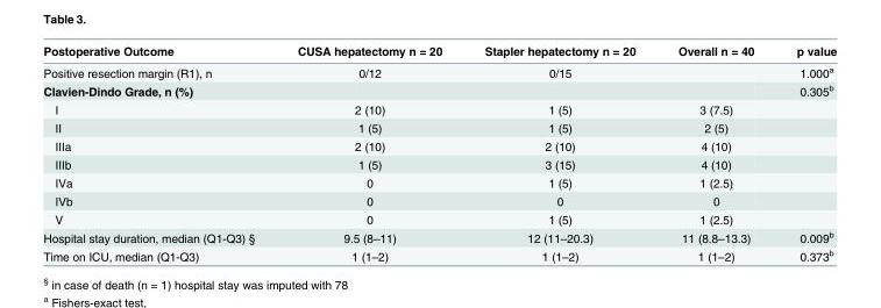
<table><thead><tr><td>Postoperative Outcome</td><td>CUSA hepatectomy n = 20</td><td>Stapler hepatectomy n = 20</td><td>Overall n = 40</td><td>p value</td></tr></thead><tbody><tr><td>Positive resection margin (R1), n</td><td>0/12</td><td>0/15</td><td></td><td>1.000<sup>a</sup></td></tr><tr><td>Clavien-Dindo Grade, n (%)</td><td></td><td></td><td></td><td>0.305<sup>b</sup></td></tr><tr><td>I</td><td>2 (10)</td><td>1 (5)</td><td>3 (7.5)</td><td></td></tr><tr><td>II</td><td>1 (5)</td><td>1 (5)</td><td>2 (5)</td><td></td></tr><tr><td>IIIa</td><td>2 (10)</td><td>2 (10)</td><td>4 (10)</td><td></td></tr><tr><td>IIIb</td><td>1 (5)</td><td>3 (15)</td><td>4 (10)</td><td></td></tr><tr><td>IVa</td><td>0</td><td>1 (5)</td><td>1 (2.5)</td><td></td></tr><tr><td>IVb</td><td>0</td><td>0</td><td>0</td><td></td></tr><tr><td>V</td><td>0</td><td>1 (5)</td><td>1 (2.5)</td><td></td></tr><tr><td>Hospital stay duration, median (Q1-Q3) §</td><td>9.5 (8–11)</td><td>12 (11–20.3)</td><td>11 (8.8–13.3)</td><td>0.009<sup>b</sup></td></tr><tr><td>Time on ICU, median (Q1-Q3)</td><td>1 (1–2)</td><td>1 (1–2)</td><td>1 (1–2)</td><td>0.373<sup>b</sup></td></tr></tbody></table>